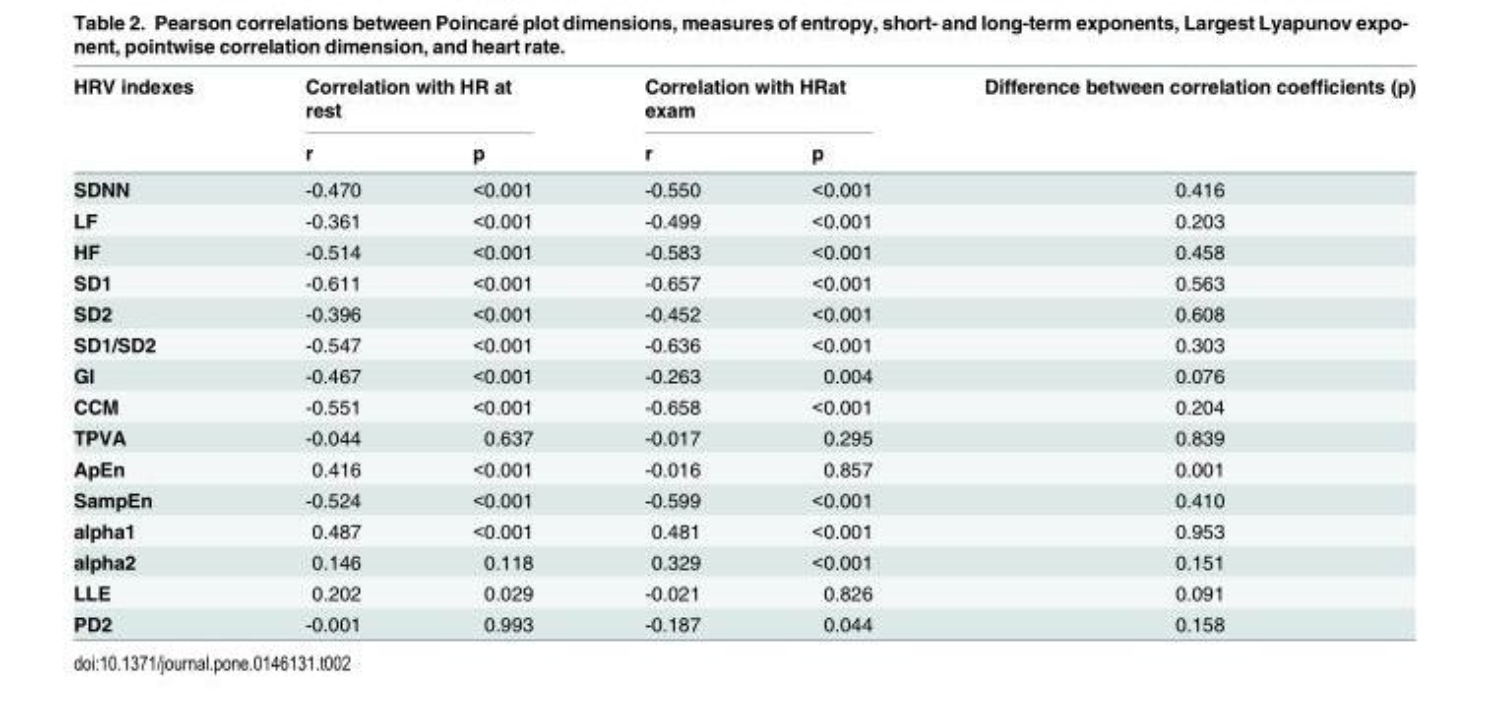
<table><thead><tr><td rowspan="2">HRV indexes</td><td colspan="2">Correlation with HR at rest</td><td colspan="2">Correlation with HRat exam</td><td rowspan="2">Difference between correlation coefficients (p)</td></tr><tr><td>r</td><td>p</td><td>r</td><td>p</td></tr></thead><tbody><tr><td>SDNN</td><td>-0.470</td><td>&lt;0.001</td><td>-0.550</td><td>&lt;0.001</td><td>0.416</td></tr><tr><td>LF</td><td>-0.361</td><td>&lt;0.001</td><td>-0.499</td><td>&lt;0.001</td><td>0.203</td></tr><tr><td>HF</td><td>-0.514</td><td>&lt;0.001</td><td>-0.583</td><td>&lt;0.001</td><td>0.458</td></tr><tr><td>SD1</td><td>-0.611</td><td>&lt;0.001</td><td>-0.657</td><td>&lt;0.001</td><td>0.563</td></tr><tr><td>SD2</td><td>-0.396</td><td>&lt;0.001</td><td>-0.452</td><td>&lt;0.001</td><td>0.608</td></tr><tr><td>SD1/SD2</td><td>-0.547</td><td>&lt;0.001</td><td>-0.636</td><td>&lt;0.001</td><td>0.303</td></tr><tr><td>GI</td><td>-0.467</td><td>&lt;0.001</td><td>-0.263</td><td>0.004</td><td>0.076</td></tr><tr><td>CCM</td><td>-0.551</td><td>&lt;0.001</td><td>-0.658</td><td>&lt;0.001</td><td>0.204</td></tr><tr><td>TPVA</td><td>-0.044</td><td>0.637</td><td>-0.017</td><td>0.295</td><td>0.839</td></tr><tr><td>ApEn</td><td>0.416</td><td>&lt;0.001</td><td>-0.016</td><td>0.857</td><td>0.001</td></tr><tr><td>SampEn</td><td>-0.524</td><td>&lt;0.001</td><td>-0.599</td><td>&lt;0.001</td><td>0.410</td></tr><tr><td>alpha1</td><td>0.487</td><td>&lt;0.001</td><td>0.481</td><td>&lt;0.001</td><td>0.953</td></tr><tr><td>alpha2</td><td>0.146</td><td>0.118</td><td>0.329</td><td>&lt;0.001</td><td>0.151</td></tr><tr><td>LLE</td><td>0.202</td><td>0.029</td><td>-0.021</td><td>0.826</td><td>0.091</td></tr><tr><td>PD2</td><td>-0.001</td><td>0.993</td><td>-0.187</td><td>0.044</td><td>0.158</td></tr></tbody></table>